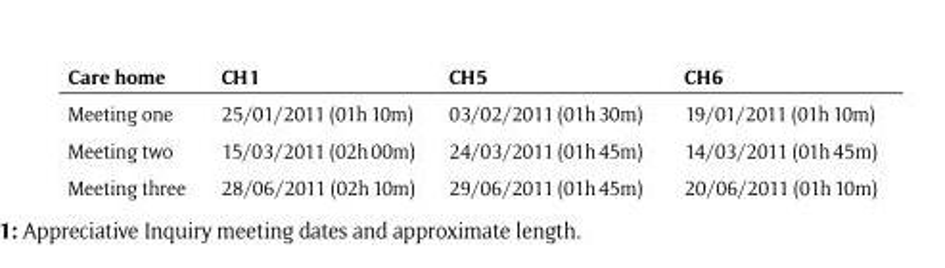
<table><thead><tr><td>Care home</td><td>CH1</td><td>CH5</td><td>CH6</td></tr></thead><tbody><tr><td>Meeting one</td><td>25/01/2011 (01h 10m)</td><td>03/02/2011 (01h 30m)</td><td>19/01/2011 (01h 10m)</td></tr><tr><td>Meeting two</td><td>15/03/2011 (02h 00m)</td><td>24/03/2011 (01h 45m)</td><td>14/03/2011 (01h 45m)</td></tr><tr><td>Meeting three</td><td>28/06/2011 (02h 10m)</td><td>29/06/2011 (01h 45m)</td><td>20/06/2011 (01h 10m)</td></tr></tbody></table>